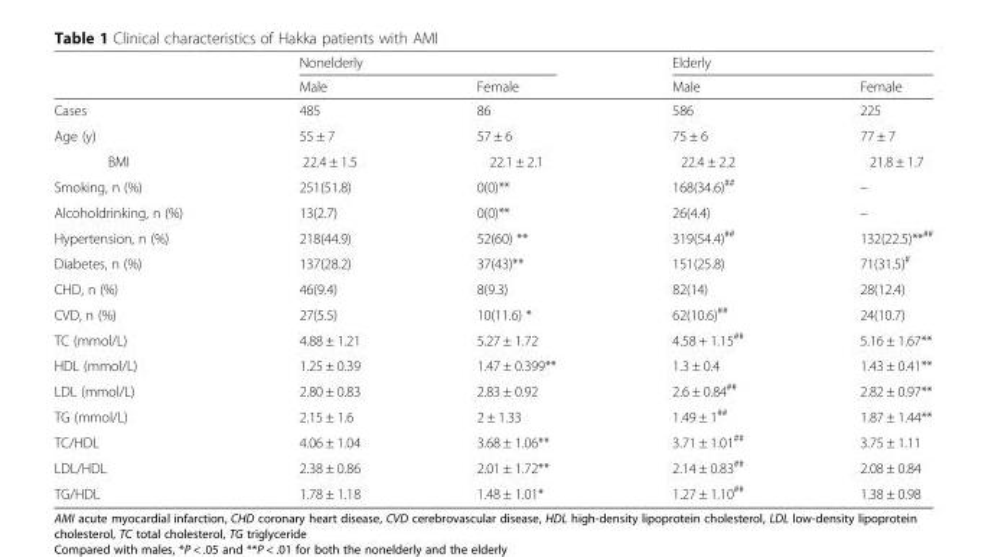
<table><thead><tr><td rowspan="2"></td><td colspan="2">Nonelderly</td><td colspan="2">Elderly</td></tr><tr><td>Male</td><td>Female</td><td>Male</td><td>Female</td></tr></thead><tbody><tr><td>Cases</td><td>485</td><td>86</td><td>586</td><td>225</td></tr><tr><td>Age (y)</td><td>55 ± 7</td><td>57 ± 6</td><td>75 ± 6</td><td>77 ± 7</td></tr><tr><td>BMI</td><td>22.4 ± 1.5</td><td>22.1 ± 2.1</td><td>22.4 ± 2.2</td><td>21.8 ± 1.7</td></tr><tr><td>Smoking, n (%)</td><td>251(51.8)</td><td>0(0)**</td><td>168(34.6)<sup>##</sup></td><td>–</td></tr><tr><td>Alcoholdrinking, n (%)</td><td>13(2.7)</td><td>0(0)**</td><td>26(4.4)</td><td>–</td></tr><tr><td>Hypertension, n (%)</td><td>218(44.9)</td><td>52(60) **</td><td>319(54.4)<sup>##</sup></td><td>132(22.5)**<sup>##</sup></td></tr><tr><td>Diabetes, n (%)</td><td>137(28.2)</td><td>37(43)**</td><td>151(25.8)</td><td>71(31.5)<sup>#</sup></td></tr><tr><td>CHD, n (%)</td><td>46(9.4)</td><td>8(9.3)</td><td>82(14)</td><td>28(12.4)</td></tr><tr><td>CVD, n (%)</td><td>27(5.5)</td><td>10(11.6) *</td><td>62(10.6)<sup>##</sup></td><td>24(10.7)</td></tr><tr><td>TC (mmol/L)</td><td>4.88 ± 1.21</td><td>5.27 ± 1.72</td><td>4.58 + 1.15<sup>##</sup></td><td>5.16 ± 1.67**</td></tr><tr><td>HDL (mmol/L)</td><td>1.25 ± 0.39</td><td>1.47 ± 0.399**</td><td>1.3 ± 0.4</td><td>1.43 ± 0.41**</td></tr><tr><td>LDL (mmol/L)</td><td>2.80 ± 0.83</td><td>2.83 ± 0.92</td><td>2.6 ± 0.84<sup>##</sup></td><td>2.82 ± 0.97**</td></tr><tr><td>TG (mmol/L)</td><td>2.15 ± 1.6</td><td>2 ± 1.33</td><td>1.49 ± 1<sup>##</sup></td><td>1.87 ± 1.44**</td></tr><tr><td>TC/HDL</td><td>4.06 ± 1.04</td><td>3.68 ± 1.06**</td><td>3.71 ± 1.01<sup>##</sup></td><td>3.75 ± 1.11</td></tr><tr><td>LDL/HDL</td><td>2.38 ± 0.86</td><td>2.01 ± 1.72**</td><td>2.14 ± 0.83<sup>##</sup></td><td>2.08 ± 0.84</td></tr><tr><td>TG/HDL</td><td>1.78 ± 1.18</td><td>1.48 ± 1.01*</td><td>1.27 ± 1.10<sup>##</sup></td><td>1.38 ± 0.98</td></tr></tbody></table>